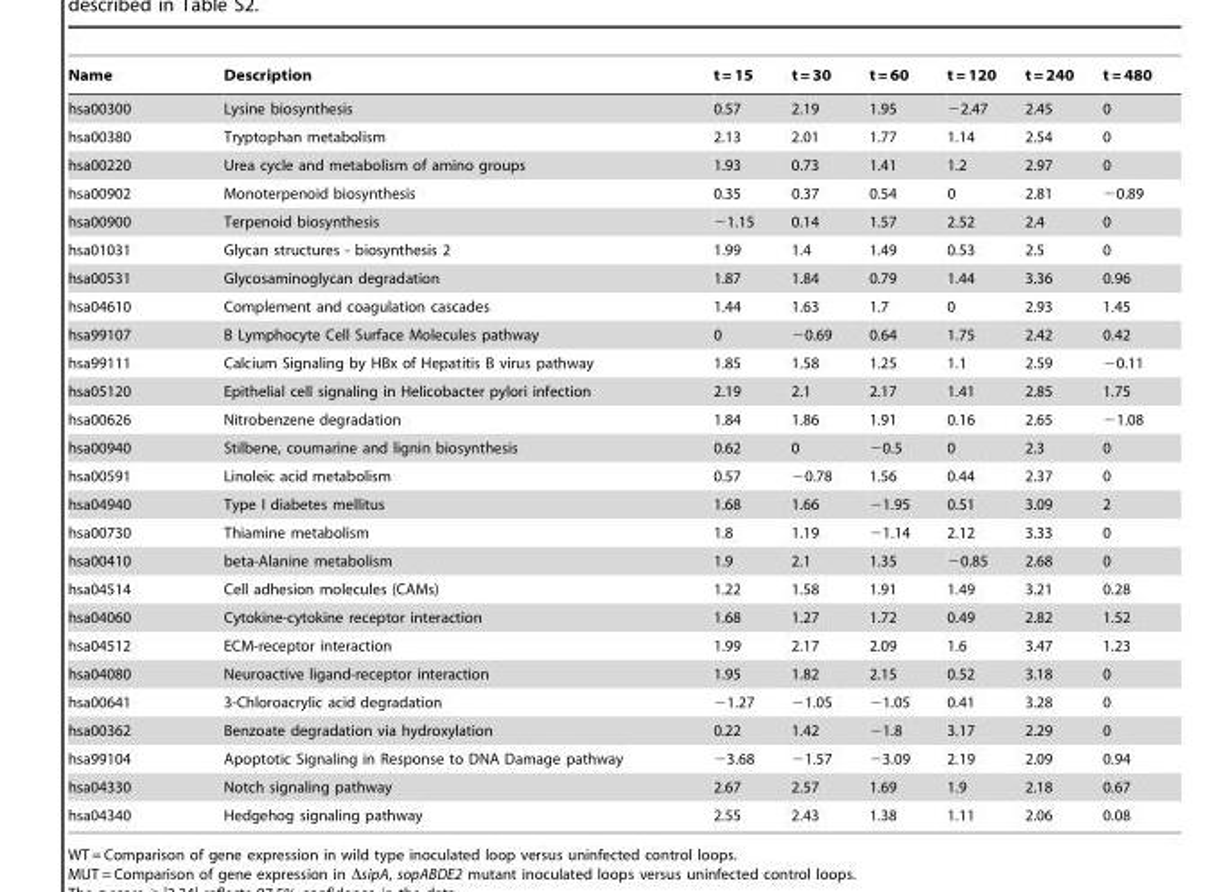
<table><thead><tr><td>Name</td><td>Description</td><td>t = 15</td><td>t = 30</td><td>t = 60</td><td>t = 120</td><td>t = 240</td><td>t = 480</td></tr></thead><tbody><tr><td>hsa00300</td><td>Lysine biosynthesis</td><td>0.57</td><td>2.19</td><td>1.95</td><td>−2.47</td><td>2.45</td><td>0</td></tr><tr><td>hsa00380</td><td>Tryptophan metabolism</td><td>2.13</td><td>2.01</td><td>1.77</td><td>1.14</td><td>2.54</td><td>0</td></tr><tr><td>hsa00220</td><td>Urea cycle and metabolism of amino groups</td><td>1.93</td><td>0.73</td><td>1.41</td><td>1.2</td><td>2.97</td><td>0</td></tr><tr><td>hsa00902</td><td>Monoterpenoid biosynthesis</td><td>0.35</td><td>0.37</td><td>0.54</td><td>0</td><td>2.81</td><td>−0.89</td></tr><tr><td>hsa00900</td><td>Terpenoid biosynthesis</td><td>−1.15</td><td>0.14</td><td>1.57</td><td>2.52</td><td>2.4</td><td>0</td></tr><tr><td>hsa01031</td><td>Glycan structures - biosynthesis 2</td><td>1.99</td><td>1.4</td><td>1.49</td><td>0.53</td><td>2.5</td><td>0</td></tr><tr><td>hsa00531</td><td>Glycosaminoglycan degradation</td><td>1.87</td><td>1.84</td><td>0.79</td><td>1.44</td><td>3.36</td><td>0.96</td></tr><tr><td>hsa04610</td><td>Complement and coagulation cascades</td><td>1.44</td><td>1.63</td><td>1.7</td><td>0</td><td>2.93</td><td>1.45</td></tr><tr><td>hsa99107</td><td>B Lymphocyte Cell Surface Molecules pathway</td><td>0</td><td>−0.69</td><td>0.64</td><td>1.75</td><td>2.42</td><td>0.42</td></tr><tr><td>hsa99111</td><td>Calcium Signaling by HBx of Hepatitis B virus pathway</td><td>1.85</td><td>1.58</td><td>1.25</td><td>1.1</td><td>2.59</td><td>−0.11</td></tr><tr><td>hsa05120</td><td>Epithelial cell signaling in Helicobacter pylori infection</td><td>2.19</td><td>2.1</td><td>2.17</td><td>1.41</td><td>2.85</td><td>1.75</td></tr><tr><td>hsa00626</td><td>Nitrobenzene degradation</td><td>1.84</td><td>1.86</td><td>1.91</td><td>0.16</td><td>2.65</td><td>−1.08</td></tr><tr><td>hsa00940</td><td>Stilbene, coumarine and lignin biosynthesis</td><td>0.62</td><td>0</td><td>−0.5</td><td>0</td><td>2.3</td><td>0</td></tr><tr><td>hsa00591</td><td>Linoleic acid metabolism</td><td>0.57</td><td>−0.78</td><td>1.56</td><td>0.44</td><td>2.37</td><td>0</td></tr><tr><td>hsa04940</td><td>Type I diabetes mellitus</td><td>1.68</td><td>1.66</td><td>−1.95</td><td>0.51</td><td>3.09</td><td>2</td></tr><tr><td>hsa00730</td><td>Thiamine metabolism</td><td>1.8</td><td>1.19</td><td>−1.14</td><td>2.12</td><td>3.33</td><td>0</td></tr><tr><td>hsa00410</td><td>beta-Alanine metabolism</td><td>1.9</td><td>2.1</td><td>1.35</td><td>−0.85</td><td>2.68</td><td>0</td></tr><tr><td>hsa04514</td><td>Cell adhesion molecules (CAMs)</td><td>1.22</td><td>1.58</td><td>1.91</td><td>1.49</td><td>3.21</td><td>0.28</td></tr><tr><td>hsa04060</td><td>Cytokine-cytokine receptor interaction</td><td>1.68</td><td>1.27</td><td>1.72</td><td>0.49</td><td>2.82</td><td>1.52</td></tr><tr><td>hsa04512</td><td>ECM-receptor interaction</td><td>1.99</td><td>2.17</td><td>2.09</td><td>1.6</td><td>3.47</td><td>1.23</td></tr><tr><td>hsa04080</td><td>Neuroactive ligand-receptor interaction</td><td>1.95</td><td>1.82</td><td>2.15</td><td>0.52</td><td>3.18</td><td>0</td></tr><tr><td>hsa00641</td><td>3-Chloroacrylic acid degradation</td><td>−1.27</td><td>−1.05</td><td>−1.05</td><td>0.41</td><td>3.28</td><td>0</td></tr><tr><td>hsa00362</td><td>Benzoate degradation via hydroxylation</td><td>0.22</td><td>1.42</td><td>−1.8</td><td>3.17</td><td>2.29</td><td>0</td></tr><tr><td>hsa99104</td><td>Apoptotic Signaling in Response to DNA Damage pathway</td><td>−3.68</td><td>−1.57</td><td>−3.09</td><td>2.19</td><td>2.09</td><td>0.94</td></tr><tr><td>hsa04330</td><td>Notch signaling pathway</td><td>2.67</td><td>2.57</td><td>1.69</td><td>1.9</td><td>2.18</td><td>0.67</td></tr><tr><td>hsa04340</td><td>Hedgehog signaling pathway</td><td>2.55</td><td>2.43</td><td>1.38</td><td>1.11</td><td>2.06</td><td>0.08</td></tr></tbody></table>